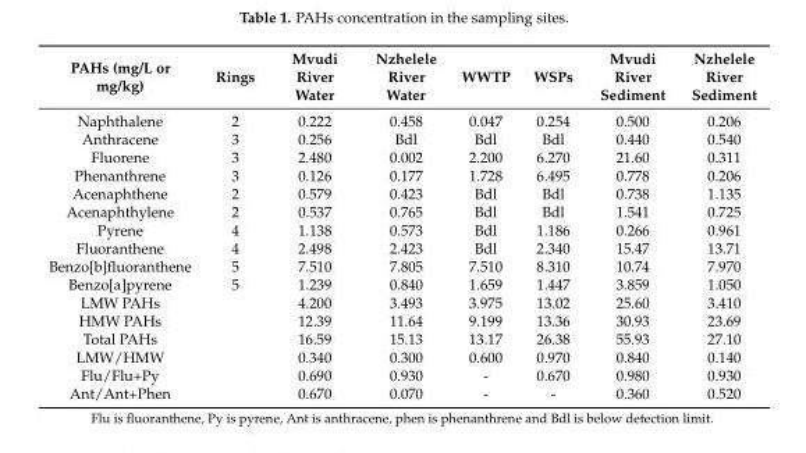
<table><thead><tr><td>PAHs (mg/L or mg/kg)</td><td>Rings</td><td>Mvudi River Water</td><td>Nzhelele River Water</td><td>WWTP</td><td>WSPs</td><td>Mvudi River Sediment</td><td>Nzhelele River Sediment</td></tr></thead><tbody><tr><td>Naphthalene</td><td>2</td><td>0.222</td><td>0.458</td><td>0.047</td><td>0.254</td><td>0.500</td><td>0.206</td></tr><tr><td>Anthracene</td><td>3</td><td>0.256</td><td>Bdl</td><td>Bdl</td><td>Bdl</td><td>0.440</td><td>0.540</td></tr><tr><td>Fluorene</td><td>3</td><td>2.480</td><td>0.002</td><td>2.200</td><td>6.270</td><td>21.60</td><td>0.311</td></tr><tr><td>Phenanthrene</td><td>3</td><td>0.126</td><td>0.177</td><td>1.728</td><td>6.495</td><td>0.778</td><td>0.206</td></tr><tr><td>Acenaphthene</td><td>2</td><td>0.579</td><td>0.423</td><td>Bdl</td><td>Bdl</td><td>0.738</td><td>1.135</td></tr><tr><td>Acenaphthylene</td><td>2</td><td>0.537</td><td>0.765</td><td>Bdl</td><td>Bdl</td><td>1.541</td><td>0.725</td></tr><tr><td>Pyrene</td><td>4</td><td>1.138</td><td>0.573</td><td>Bdl</td><td>1.186</td><td>0.266</td><td>0.961</td></tr><tr><td>Fluoranthene</td><td>4</td><td>2.498</td><td>2.423</td><td>Bdl</td><td>2.340</td><td>15.47</td><td>13.71</td></tr><tr><td>Benzo[b]fluoranthene</td><td>5</td><td>7.510</td><td>7.805</td><td>7.510</td><td>8.310</td><td>10.74</td><td>7.970</td></tr><tr><td>Benzo[a]pyrene</td><td>5</td><td>1.239</td><td>0.840</td><td>1.659</td><td>1.447</td><td>3.859</td><td>1.050</td></tr><tr><td>LMW PAHs</td><td></td><td>4.200</td><td>3.493</td><td>3.975</td><td>13.02</td><td>25.60</td><td>3.410</td></tr><tr><td>HMW PAHs</td><td></td><td>12.39</td><td>11.64</td><td>9.199</td><td>13.36</td><td>30.93</td><td>23.69</td></tr><tr><td>Total PAHs</td><td></td><td>16.59</td><td>15.13</td><td>13.17</td><td>26.38</td><td>55.93</td><td>27.10</td></tr><tr><td>LMW/HMW</td><td></td><td>0.340</td><td>0.300</td><td>0.600</td><td>0.970</td><td>0.840</td><td>0.140</td></tr><tr><td>Flu/Flu+Py</td><td></td><td>0.690</td><td>0.930</td><td>-</td><td>0.670</td><td>0.980</td><td>0.930</td></tr><tr><td>Ant/Ant+Phen</td><td></td><td>0.670</td><td>0.070</td><td>-</td><td>-</td><td>0.360</td><td>0.520</td></tr></tbody></table>